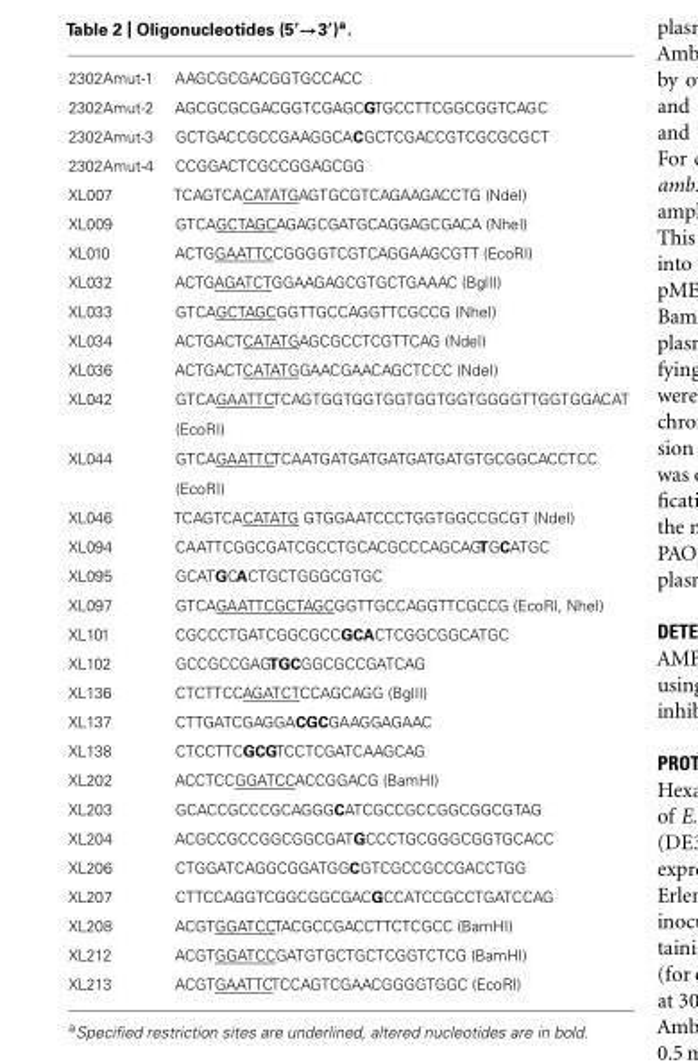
<table><tbody><tr><td>2302Amut-1</td><td>AAGCGCGACGGTGCCACC</td></tr><tr><td>2302Amut-2</td><td>AGCGCGCGACGGTCGAGCGTGCCTTCGGCGGTCAGC</td></tr><tr><td>2302Amut-3</td><td>GCTGACCGCCGAAGGCACGCTCGACCGTCGCGCGCT</td></tr><tr><td>2302Amut-4</td><td>CCGGACTCGCCGGAGCGG</td></tr><tr><td>XL007</td><td>TCAGTCACATATGAGTGCGTCAGAAGACCTG (NdeI)</td></tr><tr><td>XL009</td><td>GTCAGCTAGCAGAGCGATGCAGGAGCGACA (NheI)</td></tr><tr><td>XL010</td><td>ACTGGAATTCCGGGGTCGTCAGGAAGCGTT (EcoRI)</td></tr><tr><td>XL032</td><td>ACTGAGATCTGGAAGAGCGTGCTGAAAC (BglII)</td></tr><tr><td>XL033</td><td>GTCAGCTAGCGGTTGCCAGGTTCGCCG (NheI)</td></tr><tr><td>XL034</td><td>ACTGACTCATATGAGCGCCTCGTTCAG (NdeI)</td></tr><tr><td>XL036</td><td>ACTGACTCATATGGAACGAACAGCTCCC (NdeI)</td></tr><tr><td>XL042</td><td>GTCAGAATTCTCAGTGGTGGTGGTGGTGGTGGGGTTGGTGGACAT (EcoRI)</td></tr><tr><td>XL044</td><td>GTCAGAATTCTCAATGATGATGATGATGATGTGCGGCACCTCC (EcoRI)</td></tr><tr><td>XL046</td><td>TCAGTCACATATG GTGGAATCCCTGGTGGCCGCGT (NdeI)</td></tr><tr><td>XL094</td><td>CAATTCGGCGATCGCCTGCACGCCCAGCAGTGCATGC</td></tr><tr><td>XL095</td><td>GCATGCACTGCTGGGCGTGC</td></tr><tr><td>XL097</td><td>GTCAGAATTCGCTAGCGGTTGCCAGGTTCGCCG (EcoRI, NheI)</td></tr><tr><td>XL101</td><td>CGCCCTGATCGGCGCCGCACTCGGCGGCATGC</td></tr><tr><td>XL102</td><td>GCCGCCGAGTGCGGCGCCGATCAG</td></tr><tr><td>XL136</td><td>CTCTTCCAGATCTCCAGCAGG (BglII)</td></tr><tr><td>XL137</td><td>CTTGATCGAGGACGCGAAGGAGAAC</td></tr><tr><td>XL138</td><td>CTCCTTCGCGTCCTCGATCAAGCAG</td></tr><tr><td>XL202</td><td>ACCTCCGGATCCACCGGACG (BamHI)</td></tr><tr><td>XL203</td><td>GCACCGCCCGCAGGGCATCGCCGCCGGCGGCGTAG</td></tr><tr><td>XL204</td><td>ACGCCGCCGGCGGCGATGCCCTGCGGGCGGTGCACC</td></tr><tr><td>XL206</td><td>CTGGATCAGGCGGATGGCGTCGCCGCCGACCTGG</td></tr><tr><td>XL207</td><td>CTTCCAGGTCGGCGGCGACGCCATCCGCCTGATCCAG</td></tr><tr><td>XL208</td><td>ACGTGGATCCTACGCCGACCTTCTCGCC (BamHI)</td></tr><tr><td>XL212</td><td>ACGTGGATCCGATGTGCTGCTCGGTCTCG (BamHI)</td></tr><tr><td>XL213</td><td>ACGTGAATTCTCCAGTCGAACGGGGTGGC (EcoRI)</td></tr></tbody></table>